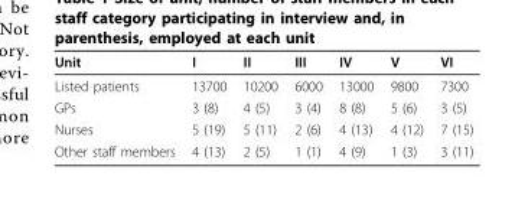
<table><thead><tr><td>Unit</td><td>I</td><td>II</td><td>III</td><td>IV</td><td>V</td><td>VI</td></tr></thead><tbody><tr><td>Listed patients</td><td>13700</td><td>10200</td><td>6000</td><td>13000</td><td>9800</td><td>7300</td></tr><tr><td>GPs</td><td>3 (8)</td><td>4 (5)</td><td>3 (4)</td><td>8 (8)</td><td>5 (6)</td><td>3 (5)</td></tr><tr><td>Nurses</td><td>5 (19)</td><td>5 (11)</td><td>2 (6)</td><td>4 (13)</td><td>4 (12)</td><td>7 (15)</td></tr><tr><td>Other staff members</td><td>4 (13)</td><td>2 (5)</td><td>1 (1)</td><td>4 (9)</td><td>1 (3)</td><td>3 (11)</td></tr></tbody></table>